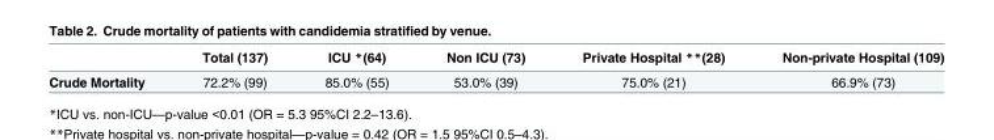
<table><thead><tr><td></td><td>Total (137)</td><td>ICU *(64)</td><td>Non ICU (73)</td><td>Private Hospital **(28)</td><td>Non-private Hospital (109)</td></tr></thead><tbody><tr><td>Crude Mortality</td><td>72.2% (99)</td><td>85.0% (55)</td><td>53.0% (39)</td><td>75.0% (21)</td><td>66.9% (73)</td></tr></tbody></table>